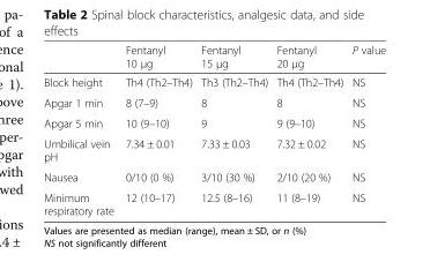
<table><thead><tr><td></td><td>Fentanyl 10 μg</td><td>Fentanyl 15 μg</td><td>Fentanyl 20 μg</td><td>P value</td></tr></thead><tbody><tr><td>Block height</td><td>Th4 (Th2–Th4)</td><td>Th3 (Th2–Th4)</td><td>Th4 (Th2–Th4)</td><td>NS</td></tr><tr><td>Apgar 1 min</td><td>8 (7–9)</td><td>8</td><td>8</td><td>NS</td></tr><tr><td>Apgar 5 min</td><td>10 (9–10)</td><td>9</td><td>9 (9–10)</td><td>NS</td></tr><tr><td>Umbilical vein pH</td><td>7.34 ± 0.01</td><td>7.33 ± 0.03</td><td>7.32 ± 0.02</td><td>NS</td></tr><tr><td>Nausea</td><td>0/10 (0 %)</td><td>3/10 (30 %)</td><td>2/10 (20 %)</td><td>NS</td></tr><tr><td>Minimum respiratory rate</td><td>12 (10–17)</td><td>12.5 (8–16)</td><td>11 (8–19)</td><td>NS</td></tr></tbody></table>